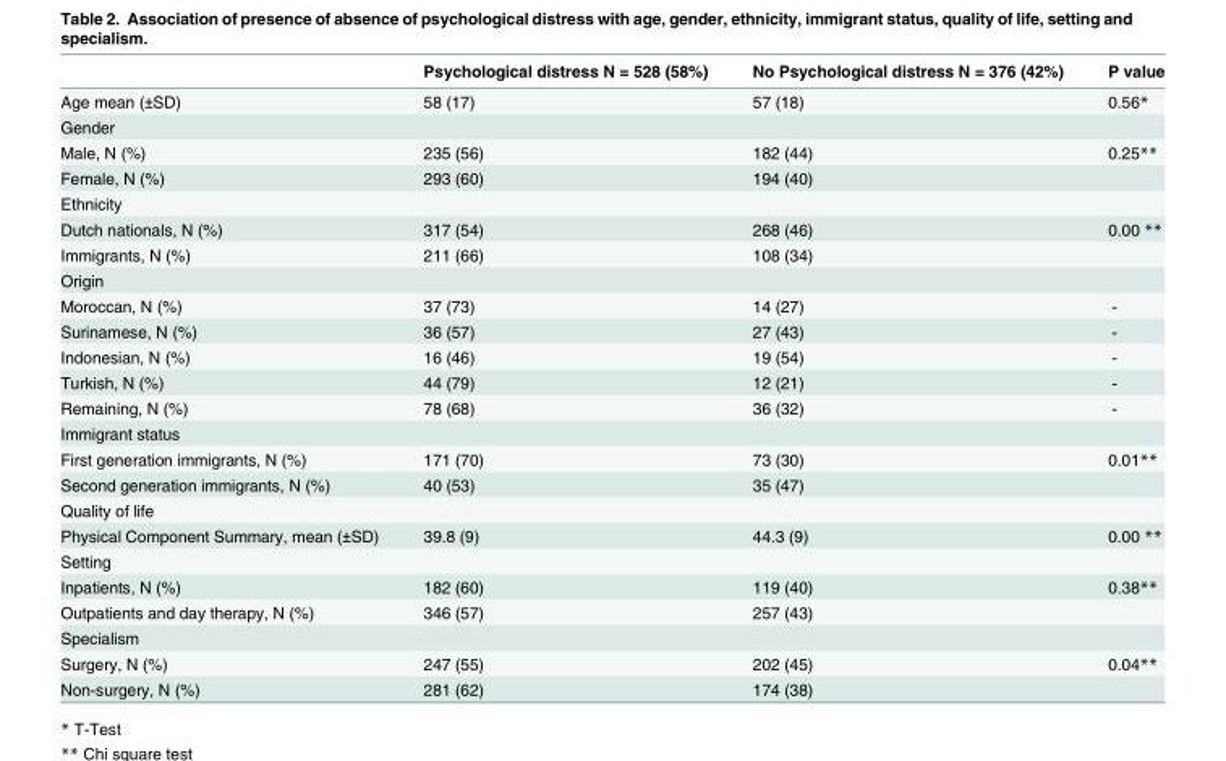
<table><thead><tr><td></td><td>Psychological distress N = 528 (58%)</td><td>No Psychological distress N = 376 (42%)</td><td>P value</td></tr></thead><tbody><tr><td>Age mean (±SD)</td><td>58 (17)</td><td>57 (18)</td><td>0.56*</td></tr><tr><td colspan="4">Gender</td></tr><tr><td>Male, N (%)</td><td>235 (56)</td><td>182 (44)</td><td>0.25**</td></tr><tr><td>Female, N (%)</td><td>293 (60)</td><td>194 (40)</td><td></td></tr><tr><td colspan="4">Ethnicity</td></tr><tr><td>Dutch nationals, N (%)</td><td>317 (54)</td><td>268 (46)</td><td>0.00 **</td></tr><tr><td>Immigrants, N (%)</td><td>211 (66)</td><td>108 (34)</td><td></td></tr><tr><td colspan="4">Origin</td></tr><tr><td>Moroccan, N (%)</td><td>37 (73)</td><td>14 (27)</td><td>-</td></tr><tr><td>Surinamese, N (%)</td><td>36 (57)</td><td>27 (43)</td><td>-</td></tr><tr><td>Indonesian, N (%)</td><td>16 (46)</td><td>19 (54)</td><td>-</td></tr><tr><td>Turkish, N (%)</td><td>44 (79)</td><td>12 (21)</td><td>-</td></tr><tr><td>Remaining, N (%)</td><td>78 (68)</td><td>36 (32)</td><td>-</td></tr><tr><td colspan="4">Immigrant status</td></tr><tr><td>First generation immigrants, N (%)</td><td>171 (70)</td><td>73 (30)</td><td>0.01**</td></tr><tr><td>Second generation immigrants, N (%)</td><td>40 (53)</td><td>35 (47)</td><td></td></tr><tr><td colspan="4">Quality of life</td></tr><tr><td>Physical Component Summary, mean (±SD)</td><td>39.8 (9)</td><td>44.3 (9)</td><td>0.00 **</td></tr><tr><td colspan="4">Setting</td></tr><tr><td>Inpatients, N (%)</td><td>182 (60)</td><td>119 (40)</td><td>0.38**</td></tr><tr><td>Outpatients and day therapy, N (%)</td><td>346 (57)</td><td>257 (43)</td><td></td></tr><tr><td colspan="4">Specialism</td></tr><tr><td>Surgery, N (%)</td><td>247 (55)</td><td>202 (45)</td><td>0.04**</td></tr><tr><td>Non-surgery, N (%)</td><td>281 (62)</td><td>174 (38)</td><td></td></tr></tbody></table>